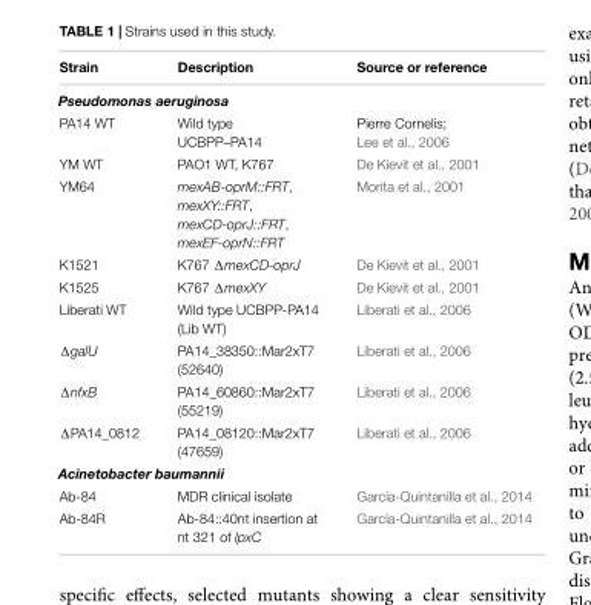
<table><thead><tr><td>Strain</td><td>Description</td><td>Source or reference</td></tr></thead><tbody><tr><td colspan="3">Pseudomonas aeruginosa</td></tr><tr><td>PA14 WT</td><td>Wild type UCBPP–PA14</td><td>Pierre Cornelis; Lee et al., 2006</td></tr><tr><td>YM WT</td><td>PAO1 WT, K767</td><td>De Kievit et al., 2001</td></tr><tr><td>YM64</td><td>mexAB-oprM::FRT, mexXY::FRT, mexCD-oprJ::FRT, mexEF-oprN::FRT</td><td>Morita et al., 2001</td></tr><tr><td>K1521</td><td>K767 ΔmexCD-oprJ</td><td>De Kievit et al., 2001</td></tr><tr><td>K1525</td><td>K767 ΔmexXY</td><td>De Kievit et al., 2001</td></tr><tr><td>Liberati WT</td><td>Wild type UCBPP-PA14 (Lib WT)</td><td>Liberati et al., 2006</td></tr><tr><td>ΔgalU</td><td>PA14_38350::Mar2xT7 (52640)</td><td>Liberati et al., 2006</td></tr><tr><td>ΔnfxB</td><td>PA14_60860::Mar2xT7 (55219)</td><td>Liberati et al., 2006</td></tr><tr><td>ΔPA14_0812</td><td>PA14_08120::Mar2xT7 (47659)</td><td>Liberati et al., 2006</td></tr><tr><td colspan="3">Acinetobacter baumannii</td></tr><tr><td>Ab-84</td><td>MDR clinical isolate</td><td>García-Quintanilla et al., 2014</td></tr><tr><td>Ab-84R</td><td>Ab-84::40nt insertion at nt 321 of lpxC</td><td>García-Quintanilla et al., 2014</td></tr></tbody></table>